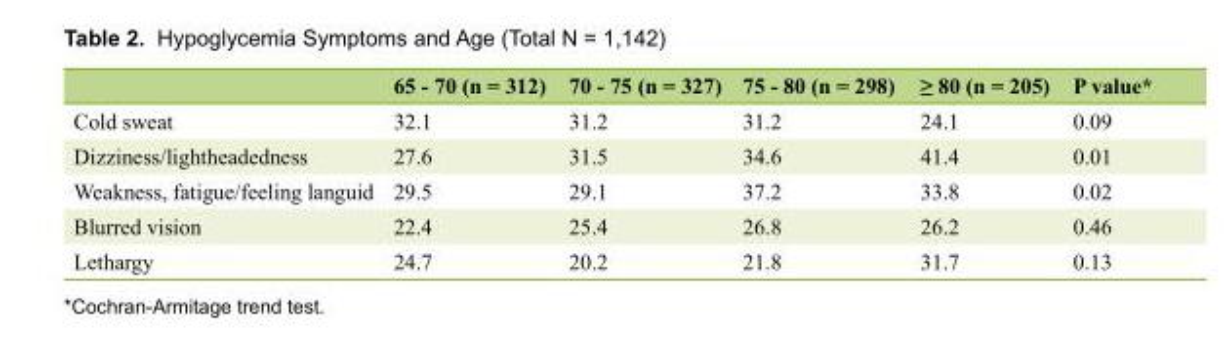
<table><thead><tr><td></td><td>65 - 70 (n = 312)</td><td>70 - 75 (n = 327)</td><td>75 - 80 (n = 298)</td><td>≥ 80 (n = 205)</td><td>P value*</td></tr></thead><tbody><tr><td>Cold sweat</td><td>32.1</td><td>31.2</td><td>31.2</td><td>24.1</td><td>0.09</td></tr><tr><td>Dizziness/lightheadedness</td><td>27.6</td><td>31.5</td><td>34.6</td><td>41.4</td><td>0.01</td></tr><tr><td>Weakness, fatigue/feeling languid</td><td>29.5</td><td>29.1</td><td>37.2</td><td>33.8</td><td>0.02</td></tr><tr><td>Blurred vision</td><td>22.4</td><td>25.4</td><td>26.8</td><td>26.2</td><td>0.46</td></tr><tr><td>Lethargy</td><td>24.7</td><td>20.2</td><td>21.8</td><td>31.7</td><td>0.13</td></tr></tbody></table>